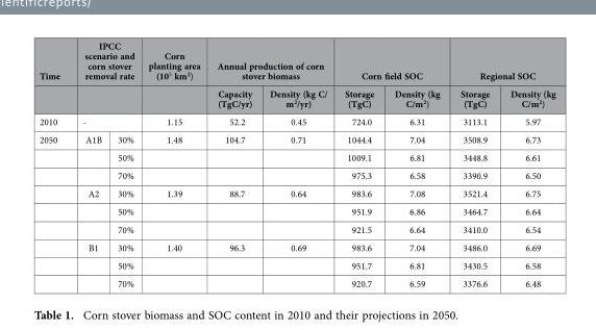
<table><thead><tr><td rowspan="2">Time</td><td colspan="2">IPCC scenario and corn stover removal rate</td><td rowspan="2">Corn planting area (10<sup>5</sup> km<sup>2</sup>)</td><td colspan="2">Annual production of corn stover biomass</td><td colspan="2">Corn field SOC</td><td colspan="2">Regional SOC</td></tr><tr><td></td><td></td><td>Capacity (TgC/yr)</td><td>Density (kg C/ m<sup>2</sup>/yr)</td><td>Storage (TgC)</td><td>Density (kg C/m<sup>2</sup>)</td><td>Storage (TgC)</td><td>Density (kg C/m<sup>2</sup>)</td></tr></thead><tbody><tr><td>2010</td><td colspan="2">-</td><td>1.15</td><td>52.2</td><td>0.45</td><td>724.0</td><td>6.31</td><td>3113.1</td><td>5.97</td></tr><tr><td rowspan="9">2050</td><td>A1B</td><td>30%</td><td>1.48</td><td>104.7</td><td>0.71</td><td>1044.4</td><td>7.04</td><td>3508.9</td><td>6.73</td></tr><tr><td></td><td>50%</td><td></td><td></td><td></td><td>1009.1</td><td>6.81</td><td>3448.8</td><td>6.61</td></tr><tr><td></td><td>70%</td><td></td><td></td><td></td><td>975.3</td><td>6.58</td><td>3390.9</td><td>6.50</td></tr><tr><td>A2</td><td>30%</td><td>1.39</td><td>88.7</td><td>0.64</td><td>983.6</td><td>7.08</td><td>3521.4</td><td>6.75</td></tr><tr><td></td><td>50%</td><td></td><td></td><td></td><td>951.9</td><td>6.86</td><td>3464.7</td><td>6.64</td></tr><tr><td></td><td>70%</td><td></td><td></td><td></td><td>921.5</td><td>6.64</td><td>3410.0</td><td>6.54</td></tr><tr><td>B1</td><td>30%</td><td>1.40</td><td>96.3</td><td>0.69</td><td>983.6</td><td>7.04</td><td>3486.0</td><td>6.69</td></tr><tr><td></td><td>50%</td><td></td><td></td><td></td><td>951.7</td><td>6.81</td><td>3430.5</td><td>6.58</td></tr><tr><td></td><td>70%</td><td></td><td></td><td></td><td>920.7</td><td>6.59</td><td>3376.6</td><td>6.48</td></tr></tbody></table>